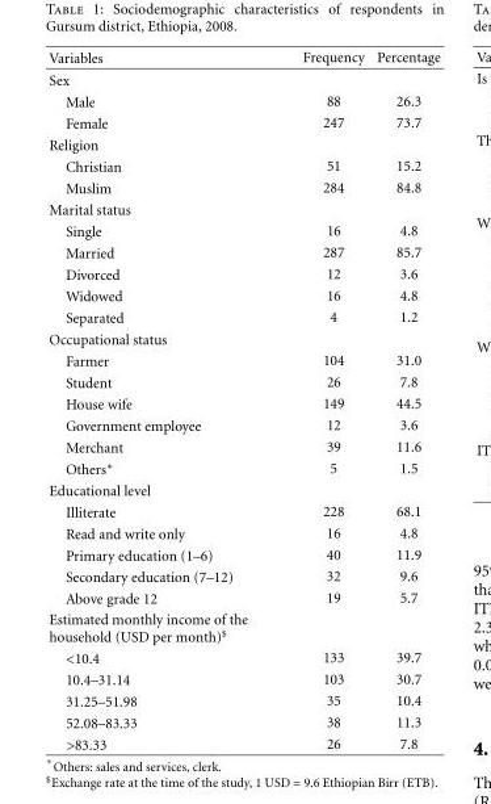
<table><thead><tr><td>Variables</td><td>Frequency</td><td>Percentage</td></tr></thead><tbody><tr><td colspan="3">Sex</td></tr><tr><td>Male</td><td>88</td><td>26.3</td></tr><tr><td>Female</td><td>247</td><td>73.7</td></tr><tr><td colspan="3">Religion</td></tr><tr><td>Christian</td><td>51</td><td>15.2</td></tr><tr><td>Muslim</td><td>284</td><td>84.8</td></tr><tr><td colspan="3">Marital status</td></tr><tr><td>Single</td><td>16</td><td>4.8</td></tr><tr><td>Married</td><td>287</td><td>85.7</td></tr><tr><td>Divorced</td><td>12</td><td>3.6</td></tr><tr><td>Widowed</td><td>16</td><td>4.8</td></tr><tr><td>Separated</td><td>4</td><td>1.2</td></tr><tr><td colspan="3">Occupational status</td></tr><tr><td>Farmer</td><td>104</td><td>31.0</td></tr><tr><td>Student</td><td>26</td><td>7.8</td></tr><tr><td>House wife</td><td>149</td><td>44.5</td></tr><tr><td>Government employee</td><td>12</td><td>3.6</td></tr><tr><td>Merchant</td><td>39</td><td>11.6</td></tr><tr><td>Others∗</td><td>5</td><td>1.5</td></tr><tr><td colspan="3">Educational level</td></tr><tr><td>Illiterate</td><td>228</td><td>68.1</td></tr><tr><td>Read and write only</td><td>16</td><td>4.8</td></tr><tr><td>Primary education (1–6)</td><td>40</td><td>11.9</td></tr><tr><td>Secondary education (7–12)</td><td>32</td><td>9.6</td></tr><tr><td>Above grade 12</td><td>19</td><td>5.7</td></tr><tr><td colspan="3">Estimated monthly income of the household (USD per month)<sup>$</sup></td></tr><tr><td>&lt;10.4</td><td>133</td><td>39.7</td></tr><tr><td>10.4–31.14</td><td>103</td><td>30.7</td></tr><tr><td>31.25–51.98</td><td>35</td><td>10.4</td></tr><tr><td>52.08–83.33</td><td>38</td><td>11.3</td></tr><tr><td>&gt;83.33</td><td>26</td><td>7.8</td></tr></tbody></table>